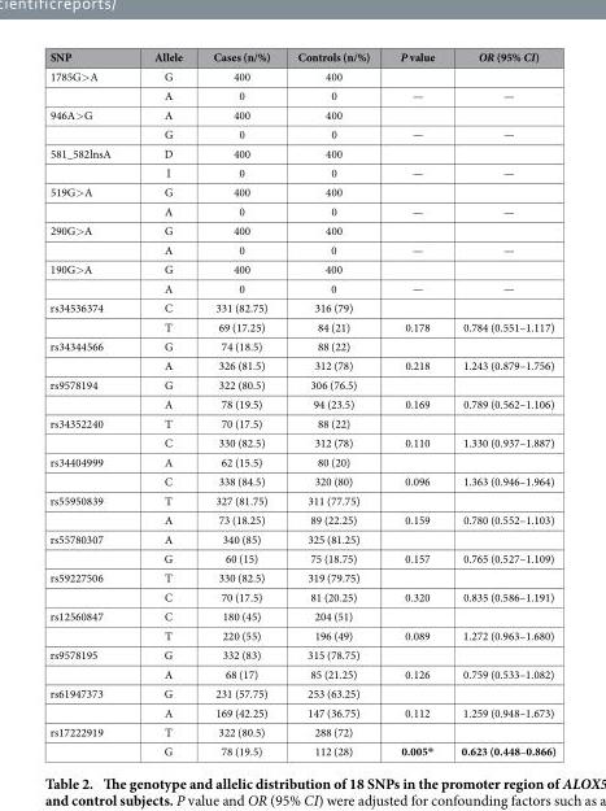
<table><thead><tr><td>SNP</td><td>Allele</td><td>Cases (n/%)</td><td>Controls (n/%)</td><td>P value</td><td>OR (95% CI)</td></tr></thead><tbody><tr><td rowspan="2">1785G&gt; A</td><td>G</td><td>400</td><td>400</td><td></td><td></td></tr><tr><td>A</td><td>0</td><td>0</td><td>—</td><td>—</td></tr><tr><td rowspan="2">946A&gt; G</td><td>A</td><td>400</td><td>400</td><td></td><td></td></tr><tr><td>G</td><td>0</td><td>0</td><td>—</td><td>—</td></tr><tr><td rowspan="2">581_582lnsA</td><td>D</td><td>400</td><td>400</td><td></td><td></td></tr><tr><td>I</td><td>0</td><td>0</td><td>—</td><td>—</td></tr><tr><td rowspan="2">519G&gt; A</td><td>G</td><td>400</td><td>400</td><td></td><td></td></tr><tr><td>A</td><td>0</td><td>0</td><td>—</td><td>—</td></tr><tr><td rowspan="2">290G&gt; A</td><td>G</td><td>400</td><td>400</td><td></td><td></td></tr><tr><td>A</td><td>0</td><td>0</td><td>—</td><td>—</td></tr><tr><td rowspan="2">190G&gt; A</td><td>G</td><td>400</td><td>400</td><td></td><td></td></tr><tr><td>A</td><td>0</td><td>0</td><td>—</td><td>—</td></tr><tr><td rowspan="2">rs34536374</td><td>C</td><td>331 (82.75)</td><td>316 (79)</td><td></td><td></td></tr><tr><td>T</td><td>69 (17.25)</td><td>84 (21)</td><td>0.178</td><td>0.784 (0.551–1.117)</td></tr><tr><td rowspan="2">rs34344566</td><td>G</td><td>74 (18.5)</td><td>88 (22)</td><td></td><td></td></tr><tr><td>A</td><td>326 (81.5)</td><td>312 (78)</td><td>0.218</td><td>1.243 (0.879–1.756)</td></tr><tr><td rowspan="2">rs9578194</td><td>G</td><td>322 (80.5)</td><td>306 (76.5)</td><td></td><td></td></tr><tr><td>A</td><td>78 (19.5)</td><td>94 (23.5)</td><td>0.169</td><td>0.789 (0.562–1.106)</td></tr><tr><td rowspan="2">rs34352240</td><td>T</td><td>70 (17.5)</td><td>88 (22)</td><td></td><td></td></tr><tr><td>C</td><td>330 (82.5)</td><td>312 (78)</td><td>0.110</td><td>1.330 (0.937–1.887)</td></tr><tr><td rowspan="2">rs34404999</td><td>A</td><td>62 (15.5)</td><td>80 (20)</td><td></td><td></td></tr><tr><td>C</td><td>338 (84.5)</td><td>320 (80)</td><td>0.096</td><td>1.363 (0.946–1.964)</td></tr><tr><td rowspan="2">rs55950839</td><td>T</td><td>327 (81.75)</td><td>311 (77.75)</td><td></td><td></td></tr><tr><td>A</td><td>73 (18.25)</td><td>89 (22.25)</td><td>0.159</td><td>0.780 (0.552–1.103)</td></tr><tr><td rowspan="2">rs55780307</td><td>A</td><td>340 (85)</td><td>325 (81.25)</td><td></td><td></td></tr><tr><td>G</td><td>60 (15)</td><td>75 (18.75)</td><td>0.157</td><td>0.765 (0.527–1.109)</td></tr><tr><td rowspan="2">rs59227506</td><td>T</td><td>330 (82.5)</td><td>319 (79.75)</td><td></td><td></td></tr><tr><td>C</td><td>70 (17.5)</td><td>81 (20.25)</td><td>0.320</td><td>0.835 (0.586–1.191)</td></tr><tr><td rowspan="2">rs12560847</td><td>C</td><td>180 (45)</td><td>204 (51)</td><td></td><td></td></tr><tr><td>T</td><td>220 (55)</td><td>196 (49)</td><td>0.089</td><td>1.272 (0.963–1.680)</td></tr><tr><td rowspan="2">rs9578195</td><td>G</td><td>332 (83)</td><td>315 (78.75)</td><td></td><td></td></tr><tr><td>A</td><td>68 (17)</td><td>85 (21.25)</td><td>0.126</td><td>0.759 (0.533–1.082)</td></tr><tr><td rowspan="2">rs61947373</td><td>G</td><td>231 (57.75)</td><td>253 (63.25)</td><td></td><td></td></tr><tr><td>A</td><td>169 (42.25)</td><td>147 (36.75)</td><td>0.112</td><td>1.259 (0.948–1.673)</td></tr><tr><td rowspan="2">rs17222919</td><td>T</td><td>322 (80.5)</td><td>288 (72)</td><td></td><td></td></tr><tr><td>G</td><td>78 (19.5)</td><td>112 (28)</td><td>0.005*</td><td>0.623 (0.448–0.866)</td></tr></tbody></table>